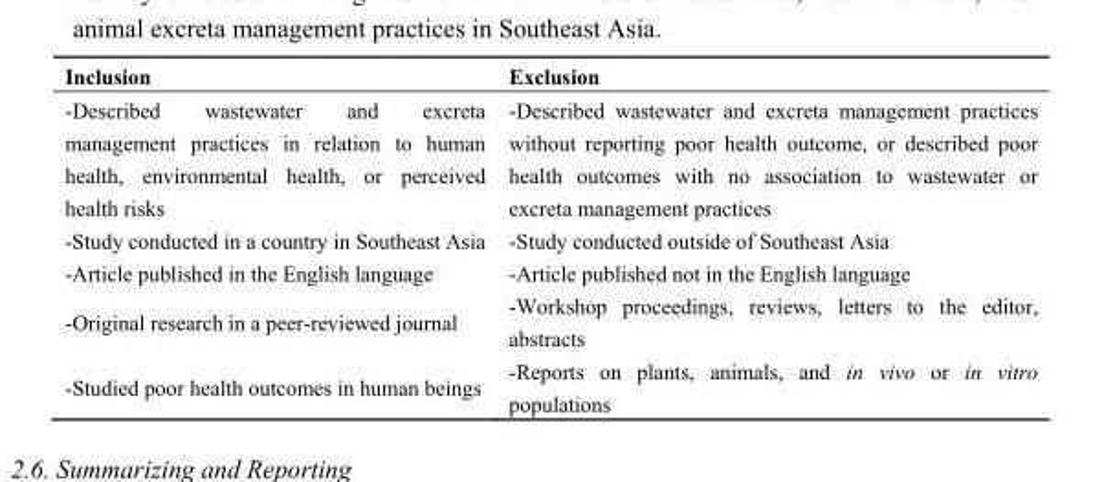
<table><thead><tr><td>Inclusion</td><td>Exclusion</td></tr></thead><tbody><tr><td>-Described wastewater and excreta management practices in relation to human health, environmental health, or perceived health risks</td><td>-Described wastewater and excreta management practices without reporting poor health outcome, or described poor health outcomes with no association to wastewater or excreta management practices</td></tr><tr><td>-Study conducted in a country in Southeast Asia</td><td>-Study conducted outside of Southeast Asia</td></tr><tr><td>-Article published in the English language</td><td>-Article published not in the English language</td></tr><tr><td>-Original research in a peer-reviewed journal</td><td>-Workshop proceedings, reviews, letters to the editor, abstracts</td></tr><tr><td>-Studied poor health outcomes in human beings</td><td>-Reports on plants, animals, and in vivo or in vitro populations</td></tr></tbody></table>